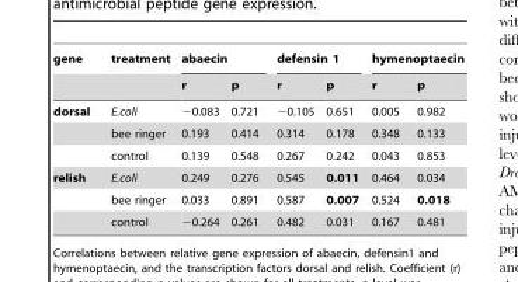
<table><thead><tr><td rowspan="2">gene</td><td rowspan="2">treatment</td><td colspan="2">abaecin</td><td colspan="2">defensin 1</td><td colspan="2">hymenoptaecin</td></tr><tr><td>r</td><td>p</td><td>r</td><td>p</td><td>r</td><td>p</td></tr></thead><tbody><tr><td rowspan="3">dorsal</td><td>E.coli</td><td>−0.083</td><td>0.721</td><td>−0.105</td><td>0.651</td><td>0.005</td><td>0.982</td></tr><tr><td>bee ringer</td><td>0.193</td><td>0.414</td><td>0.314</td><td>0.178</td><td>0.348</td><td>0.133</td></tr><tr><td>control</td><td>0.139</td><td>0.548</td><td>0.267</td><td>0.242</td><td>0.043</td><td>0.853</td></tr><tr><td rowspan="3">relish</td><td>E.coli</td><td>0.249</td><td>0.276</td><td>0.545</td><td>0.011</td><td>0.464</td><td>0.034</td></tr><tr><td>bee ringer</td><td>0.033</td><td>0.891</td><td>0.587</td><td>0.007</td><td>0.524</td><td>0.018</td></tr><tr><td>control</td><td>−0.264</td><td>0.261</td><td>0.482</td><td>0.031</td><td>0.167</td><td>0.481</td></tr></tbody></table>